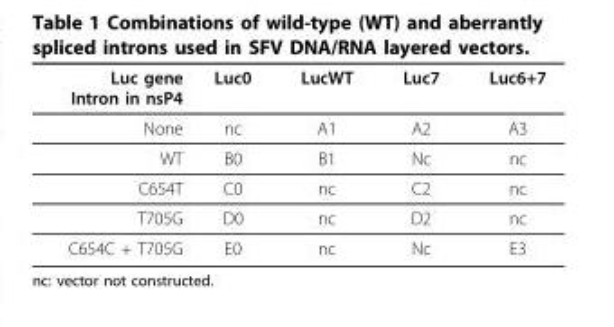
<table><thead><tr><td>Luc gene Intron in nsP4</td><td>Luc0</td><td>LucWT</td><td>Luc7</td><td>Luc6+7</td></tr></thead><tbody><tr><td>None</td><td>nc</td><td>A1</td><td>A2</td><td>A3</td></tr><tr><td>WT</td><td>B0</td><td>B1</td><td>Nc</td><td>nc</td></tr><tr><td>C654T</td><td>C0</td><td>nc</td><td>C2</td><td>nc</td></tr><tr><td>T705G</td><td>D0</td><td>nc</td><td>D2</td><td>nc</td></tr><tr><td>C654C + T705G</td><td>E0</td><td>nc</td><td>Nc</td><td>E3</td></tr></tbody></table>